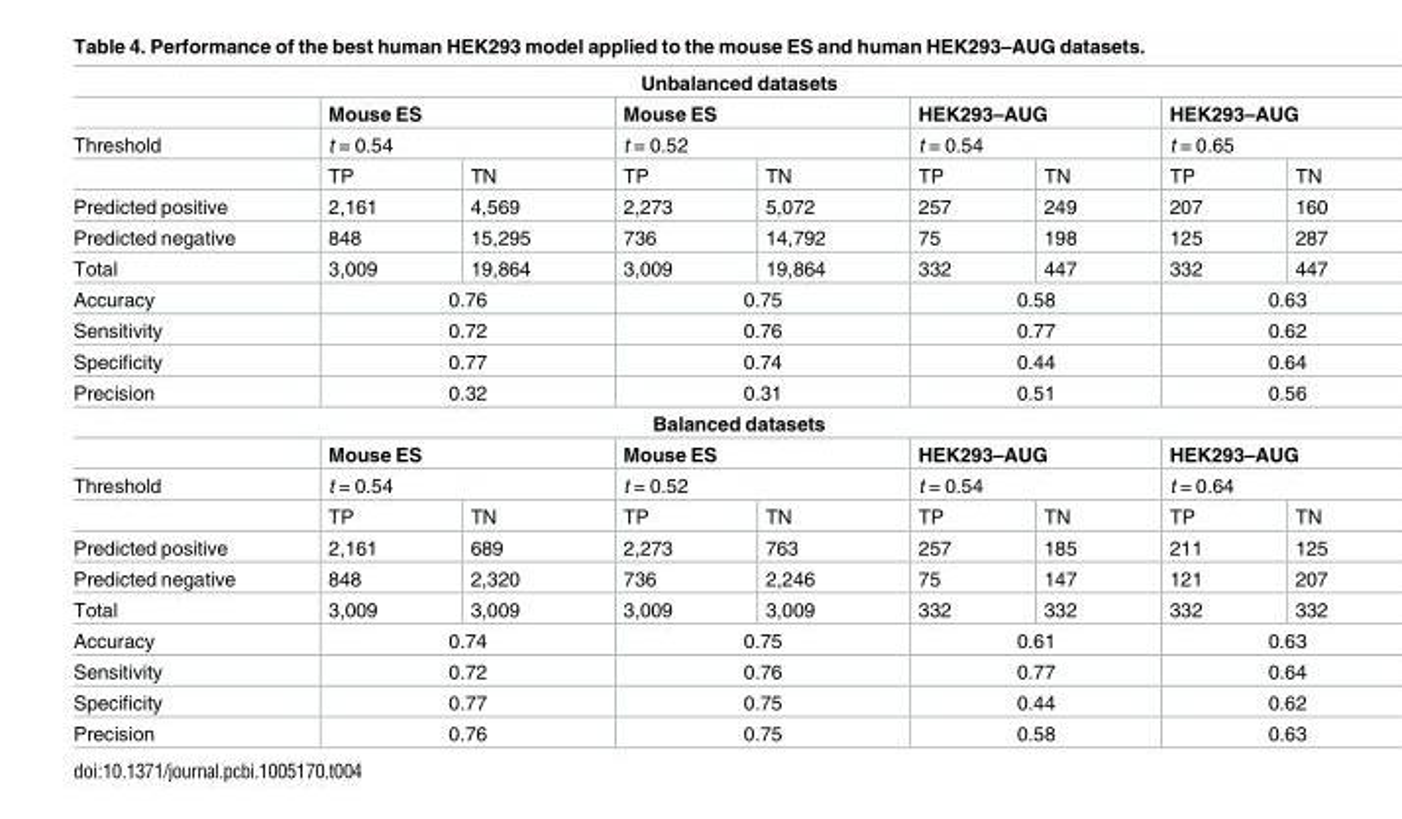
<table><tbody><tr><td colspan="9">Unbalanced datasets</td></tr><tr><td></td><td colspan="2">Mouse ES</td><td colspan="2">Mouse ES</td><td colspan="2">HEK293–AUG</td><td colspan="2">HEK293–AUG</td></tr><tr><td rowspan="2">Threshold</td><td colspan="2">t = 0.54</td><td colspan="2">t = 0.52</td><td colspan="2">t = 0.54</td><td colspan="2">t = 0.65</td></tr><tr><td>TP</td><td>TN</td><td>TP</td><td>TN</td><td>TP</td><td>TN</td><td>TP</td><td>TN</td></tr><tr><td>Predicted positive</td><td>2,161</td><td>4,569</td><td>2,273</td><td>5,072</td><td>257</td><td>249</td><td>207</td><td>160</td></tr><tr><td>Predicted negative</td><td>848</td><td>15,295</td><td>736</td><td>14,792</td><td>75</td><td>198</td><td>125</td><td>287</td></tr><tr><td>Total</td><td>3,009</td><td>19,864</td><td>3,009</td><td>19,864</td><td>332</td><td>447</td><td>332</td><td>447</td></tr><tr><td>Accuracy</td><td colspan="2">0.76</td><td colspan="2">0.75</td><td colspan="2">0.58</td><td colspan="2">0.63</td></tr><tr><td>Sensitivity</td><td colspan="2">0.72</td><td colspan="2">0.76</td><td colspan="2">0.77</td><td colspan="2">0.62</td></tr><tr><td>Specificity</td><td colspan="2">0.77</td><td colspan="2">0.74</td><td colspan="2">0.44</td><td colspan="2">0.64</td></tr><tr><td>Precision</td><td colspan="2">0.32</td><td colspan="2">0.31</td><td colspan="2">0.51</td><td colspan="2">0.56</td></tr><tr><td colspan="9">Balanced datasets</td></tr><tr><td></td><td colspan="2">Mouse ES</td><td colspan="2">Mouse ES</td><td colspan="2">HEK293–AUG</td><td colspan="2">HEK293–AUG</td></tr><tr><td rowspan="2">Threshold</td><td colspan="2">t = 0.54</td><td colspan="2">t = 0.52</td><td colspan="2">t = 0.54</td><td colspan="2">t = 0.64</td></tr><tr><td>TP</td><td>TN</td><td>TP</td><td>TN</td><td>TP</td><td>TN</td><td>TP</td><td>TN</td></tr><tr><td>Predicted positive</td><td>2,161</td><td>689</td><td>2,273</td><td>763</td><td>257</td><td>185</td><td>211</td><td>125</td></tr><tr><td>Predicted negative</td><td>848</td><td>2,320</td><td>736</td><td>2,246</td><td>75</td><td>147</td><td>121</td><td>207</td></tr><tr><td>Total</td><td>3,009</td><td>3,009</td><td>3,009</td><td>3,009</td><td>332</td><td>332</td><td>332</td><td>332</td></tr><tr><td>Accuracy</td><td colspan="2">0.74</td><td colspan="2">0.75</td><td colspan="2">0.61</td><td colspan="2">0.63</td></tr><tr><td>Sensitivity</td><td colspan="2">0.72</td><td colspan="2">0.76</td><td colspan="2">0.77</td><td colspan="2">0.64</td></tr><tr><td>Specificity</td><td colspan="2">0.77</td><td colspan="2">0.75</td><td colspan="2">0.44</td><td colspan="2">0.62</td></tr><tr><td>Precision</td><td colspan="2">0.76</td><td colspan="2">0.75</td><td colspan="2">0.58</td><td colspan="2">0.63</td></tr></tbody></table>